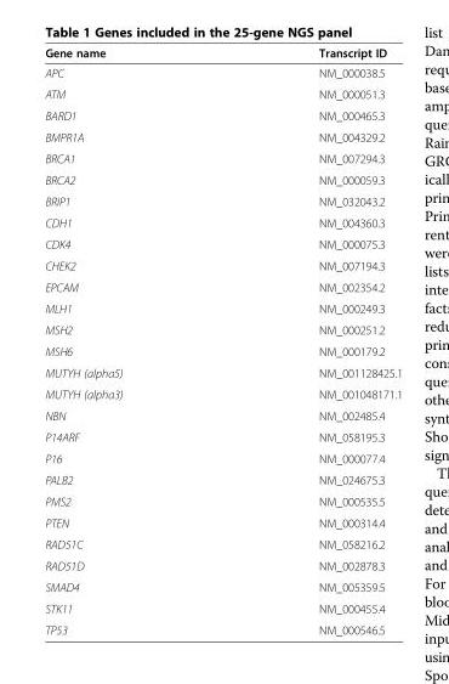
<table><thead><tr><td>Gene name</td><td>Transcript ID</td></tr></thead><tbody><tr><td>APC</td><td>NM_000038.5</td></tr><tr><td>ATM</td><td>NM_000051.3</td></tr><tr><td>BARD1</td><td>NM_000465.3</td></tr><tr><td>BMPR1A</td><td>NM_004329.2</td></tr><tr><td>BRCA1</td><td>NM_007294.3</td></tr><tr><td>BRCA2</td><td>NM_000059.3</td></tr><tr><td>BRIP1</td><td>NM_032043.2</td></tr><tr><td>CDH1</td><td>NM_004360.3</td></tr><tr><td>CDK4</td><td>NM_000075.3</td></tr><tr><td>CHEK2</td><td>NM_007194.3</td></tr><tr><td>EPCAM</td><td>NM_002354.2</td></tr><tr><td>MLH1</td><td>NM_000249.3</td></tr><tr><td>MSH2</td><td>NM_000251.2</td></tr><tr><td>MSH6</td><td>NM_000179.2</td></tr><tr><td>MUTYH (alpha5)</td><td>NM_001128425.1</td></tr><tr><td>MUTYH (alpha3)</td><td>NM_001048171.1</td></tr><tr><td>NBN</td><td>NM_002485.4</td></tr><tr><td>P14ARF</td><td>NM_058195.3</td></tr><tr><td>P16</td><td>NM_000077.4</td></tr><tr><td>PALB2</td><td>NM_024675.3</td></tr><tr><td>PMS2</td><td>NM_000535.5</td></tr><tr><td>PTEN</td><td>NM_000314.4</td></tr><tr><td>RAD51C</td><td>NM_058216.2</td></tr><tr><td>RAD51D</td><td>NM_002878.3</td></tr><tr><td>SMAD4</td><td>NM_005359.5</td></tr><tr><td>STK11</td><td>NM_000455.4</td></tr><tr><td>TP53</td><td>NM_000546.5</td></tr></tbody></table>